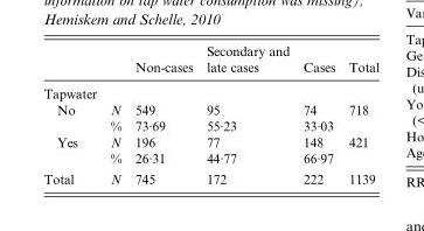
<table><thead><tr><td></td><td></td><td>Non-cases</td><td>Secondary and late cases</td><td>Cases</td><td>Total</td></tr></thead><tbody><tr><td colspan="6">Tapwater</td></tr><tr><td rowspan="2">No</td><td>N</td><td>549</td><td>95</td><td>74</td><td>718</td></tr><tr><td>%</td><td>73·69</td><td>55·23</td><td>33·03</td><td></td></tr><tr><td rowspan="2">Yes</td><td>N</td><td>196</td><td>77</td><td>148</td><td>421</td></tr><tr><td>%</td><td>26·31</td><td>44·77</td><td>66·97</td><td></td></tr><tr><td>Total</td><td>N</td><td>745</td><td>172</td><td>222</td><td>1139</td></tr></tbody></table>